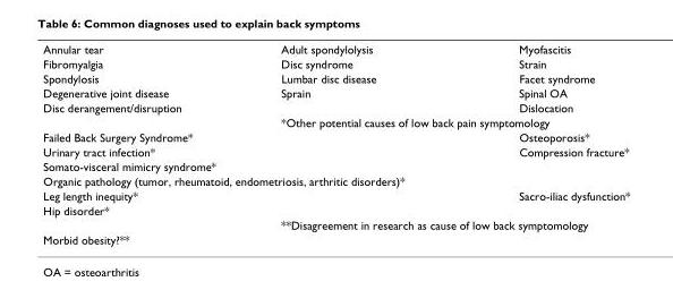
<table><tbody><tr><td>Annular tear</td><td>Adult spondylolysis</td><td>Myofascitis</td></tr><tr><td>Fibromyalgia</td><td>Disc syndrome</td><td>Strain</td></tr><tr><td>Spondylosis</td><td>Lumbar disc disease</td><td>Facet syndrome</td></tr><tr><td>Degenerative joint disease</td><td>Sprain</td><td>Spinal OA</td></tr><tr><td rowspan="2">Disc derangement/disruption</td><td></td><td>Dislocation</td></tr><tr><td colspan="2">*Other potential causes of low back pain symptomology</td></tr><tr><td colspan="2">Failed Back Surgery Syndrome*</td><td>Osteoporosis*</td></tr><tr><td colspan="2">Urinary tract infection*</td><td>Compression fracture*</td></tr><tr><td colspan="3">Somato-visceral mimicry syndrome*</td></tr><tr><td colspan="3">Organic pathology (tumor, rheumatoid, endometriosis, arthritic disorders)*</td></tr><tr><td>Leg length inequity*</td><td></td><td>Sacro-iliac dysfunction*</td></tr><tr><td colspan="3">Hip disorder*</td></tr><tr><td></td><td colspan="2">**Disagreement in research as cause of low back symptomology</td></tr><tr><td>Morbid obesity?**</td><td></td><td></td></tr></tbody></table>